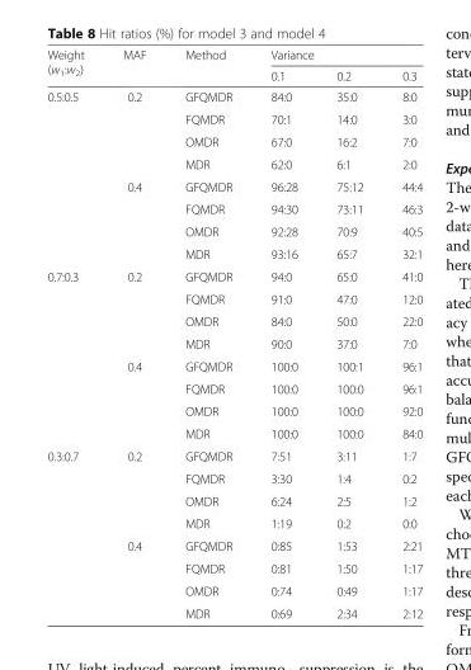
<table><thead><tr><td rowspan="2">Weight (w<sub>1</sub>:w<sub>2</sub>)</td><td rowspan="2">MAF</td><td rowspan="2">Method</td><td colspan="3">Variance</td></tr><tr><td>0.1</td><td>0.2</td><td>0.3</td></tr></thead><tbody><tr><td rowspan="8">0.5:0.5</td><td rowspan="4">0.2</td><td>GFQMDR</td><td>84:0</td><td>35:0</td><td>8:0</td></tr><tr><td>FQMDR</td><td>70:1</td><td>14:0</td><td>3:0</td></tr><tr><td>OMDR</td><td>67:0</td><td>16:2</td><td>7:0</td></tr><tr><td>MDR</td><td>62:0</td><td>6:1</td><td>2:0</td></tr><tr><td rowspan="4">0.4</td><td>GFQMDR</td><td>96:28</td><td>75:12</td><td>44:4</td></tr><tr><td>FQMDR</td><td>94:30</td><td>73:11</td><td>46:3</td></tr><tr><td>OMDR</td><td>92:28</td><td>70:9</td><td>40:5</td></tr><tr><td>MDR</td><td>93:16</td><td>65:7</td><td>32:1</td></tr><tr><td rowspan="8">0.7:0.3</td><td rowspan="4">0.2</td><td>GFQMDR</td><td>94:0</td><td>65:0</td><td>41:0</td></tr><tr><td>FQMDR</td><td>91:0</td><td>47:0</td><td>12:0</td></tr><tr><td>OMDR</td><td>84:0</td><td>50:0</td><td>22:0</td></tr><tr><td>MDR</td><td>90:0</td><td>37:0</td><td>7:0</td></tr><tr><td rowspan="4">0.4</td><td>GFQMDR</td><td>100:0</td><td>100:1</td><td>96:1</td></tr><tr><td>FQMDR</td><td>100:0</td><td>100:0</td><td>96:1</td></tr><tr><td>OMDR</td><td>100:0</td><td>100:0</td><td>92:0</td></tr><tr><td>MDR</td><td>100:0</td><td>100:0</td><td>84:0</td></tr><tr><td rowspan="8">0.3:0.7</td><td rowspan="4">0.2</td><td>GFQMDR</td><td>7:51</td><td>3:11</td><td>1:7</td></tr><tr><td>FQMDR</td><td>3:30</td><td>1:4</td><td>0:2</td></tr><tr><td>OMDR</td><td>6:24</td><td>2:5</td><td>1:2</td></tr><tr><td>MDR</td><td>1:19</td><td>0:2</td><td>0:0</td></tr><tr><td rowspan="4">0.4</td><td>GFQMDR</td><td>0:85</td><td>1:53</td><td>2:21</td></tr><tr><td>FQMDR</td><td>0:81</td><td>1:50</td><td>1:17</td></tr><tr><td>OMDR</td><td>0:74</td><td>0:49</td><td>1:17</td></tr><tr><td>MDR</td><td>0:69</td><td>2:34</td><td>2:12</td></tr></tbody></table>